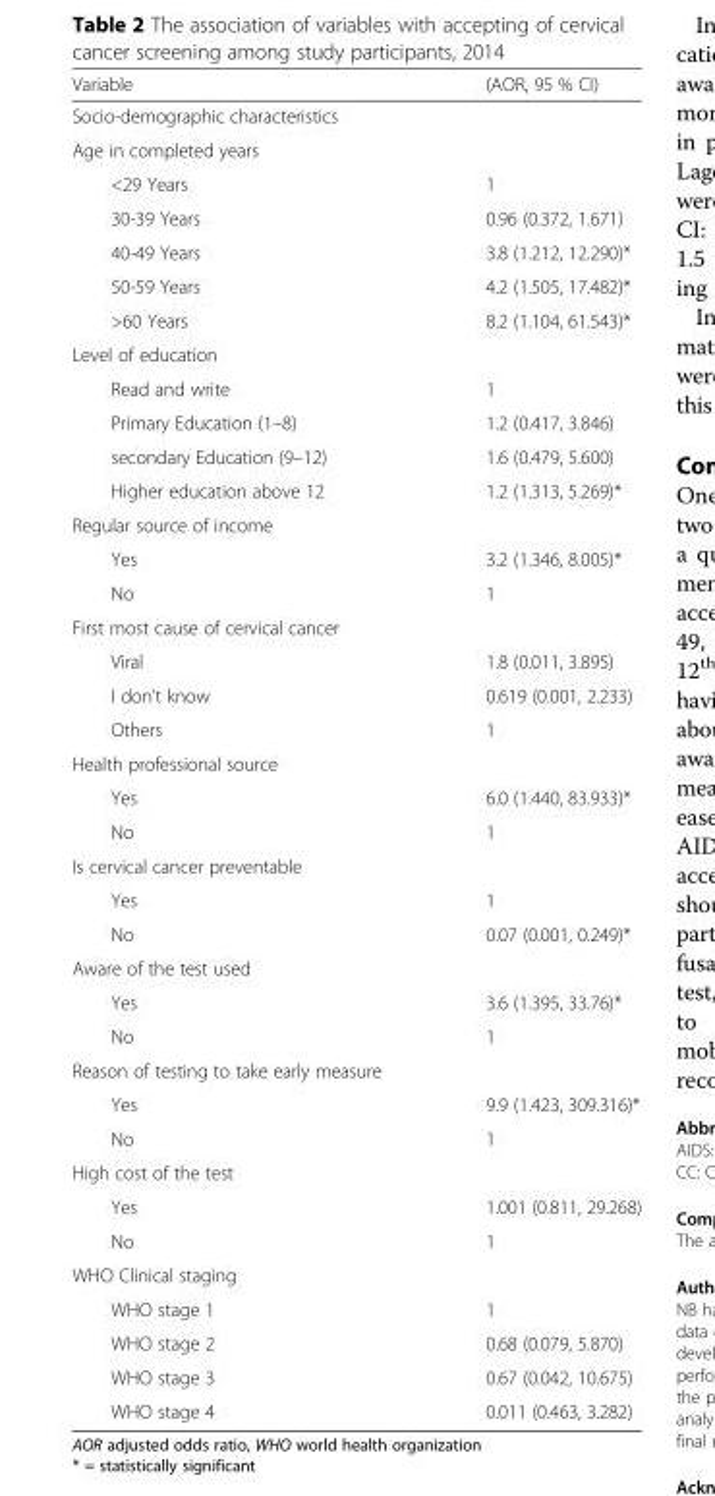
<table><thead><tr><td>Variable</td><td>(AOR, 95 % CI)</td></tr></thead><tbody><tr><td colspan="2">Socio-demographic characteristics</td></tr><tr><td colspan="2">Age in completed years</td></tr><tr><td>&lt;29 Years</td><td>1</td></tr><tr><td>30-39 Years</td><td>0.96 (0.372, 1.671)</td></tr><tr><td>40-49 Years</td><td>3.8 (1.212, 12.290)*</td></tr><tr><td>50-59 Years</td><td>4.2 (1.505, 17.482)*</td></tr><tr><td>&gt;60 Years</td><td>8.2 (1.104, 61.543)*</td></tr><tr><td colspan="2">Level of education</td></tr><tr><td>Read and write</td><td>1</td></tr><tr><td>Primary Education (1–8)</td><td>1.2 (0.417, 3.846)</td></tr><tr><td>secondary Education (9–12)</td><td>1.6 (0.479, 5.600)</td></tr><tr><td>Higher education above 12</td><td>1.2 (1.313, 5.269)*</td></tr><tr><td colspan="2">Regular source of income</td></tr><tr><td>Yes</td><td>3.2 (1.346, 8.005)*</td></tr><tr><td>No</td><td>1</td></tr><tr><td colspan="2">First most cause of cervical cancer</td></tr><tr><td>Viral</td><td>1.8 (0.011, 3.895)</td></tr><tr><td>I don&#x27;t know</td><td>0.619 (0.001, 2.233)</td></tr><tr><td>Others</td><td>1</td></tr><tr><td colspan="2">Health professional source</td></tr><tr><td>Yes</td><td>6.0 (1.440, 83.933)*</td></tr><tr><td>No</td><td>1</td></tr><tr><td colspan="2">Is cervical cancer preventable</td></tr><tr><td>Yes</td><td>1</td></tr><tr><td>No</td><td>0.07 (0.001, 0.249)*</td></tr><tr><td colspan="2">Aware of the test used</td></tr><tr><td>Yes</td><td>3.6 (1.395, 33.76)*</td></tr><tr><td>No</td><td>1</td></tr><tr><td colspan="2">Reason of testing to take early measure</td></tr><tr><td>Yes</td><td>9.9 (1.423, 309.316)*</td></tr><tr><td>No</td><td>1</td></tr><tr><td colspan="2">High cost of the test</td></tr><tr><td>Yes</td><td>1.001 (0.811, 29.268)</td></tr><tr><td>No</td><td>1</td></tr><tr><td colspan="2">WHO Clinical staging</td></tr><tr><td>WHO stage 1</td><td>1</td></tr><tr><td>WHO stage 2</td><td>0.68 (0.079, 5.870)</td></tr><tr><td>WHO stage 3</td><td>0.67 (0.042, 10.675)</td></tr><tr><td>WHO stage 4</td><td>0.011 (0.463, 3.282)</td></tr></tbody></table>